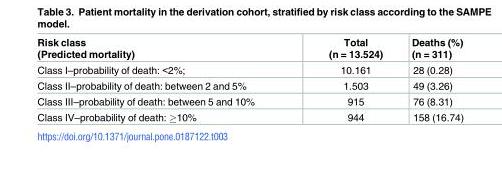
<table><thead><tr><td>Risk class (Predicted mortality)</td><td>Total (n = 13.524)</td><td>Deaths (%) (n = 311)</td></tr></thead><tbody><tr><td>Class I–probability of death: &lt;2%;</td><td>10.161</td><td>28 (0.28)</td></tr><tr><td>Class II–probability of death: between 2 and 5%</td><td>1.503</td><td>49 (3.26)</td></tr><tr><td>Class III–probability of death: between 5 and 10%</td><td>915</td><td>76 (8.31)</td></tr><tr><td>Class IV–probability of death: ≥10%</td><td>944</td><td>158 (16.74)</td></tr></tbody></table>